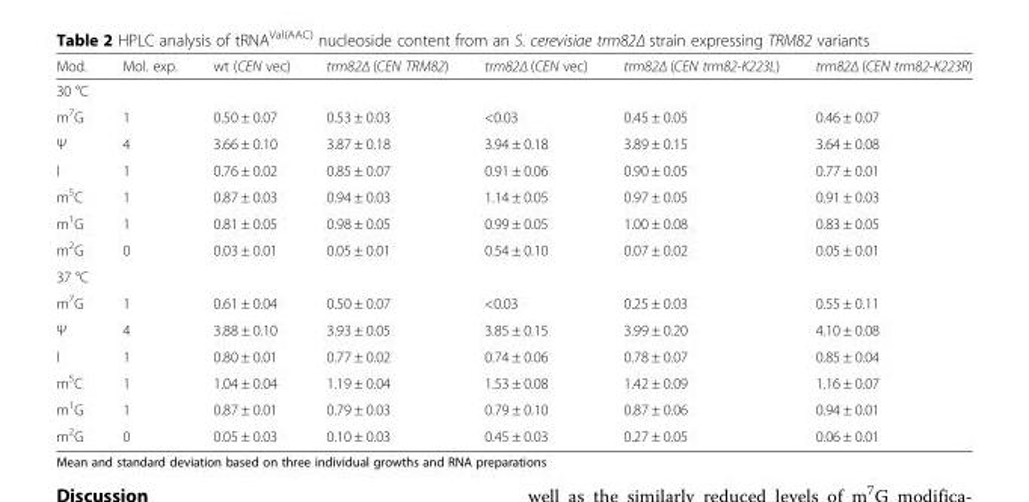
<table><thead><tr><td>Mod.</td><td>Mol. exp.</td><td>wt (CEN vec)</td><td>trm82Δ (CEN TRM82)</td><td>trm82Δ (CEN vec)</td><td>trm82Δ (CEN trm82-K223L)</td><td>trm82Δ (CEN trm82-K223R)</td></tr></thead><tbody><tr><td colspan="7">30 °C</td></tr><tr><td>m<sup>7</sup>G</td><td>1</td><td>0.50 ± 0.07</td><td>0.53 ± 0.03</td><td>&lt;0.03</td><td>0.45 ± 0.05</td><td>0.46 ± 0.07</td></tr><tr><td>Ψ</td><td>4</td><td>3.66 ± 0.10</td><td>3.87 ± 0.18</td><td>3.94 ± 0.18</td><td>3.89 ± 0.15</td><td>3.64 ± 0.08</td></tr><tr><td>I</td><td>1</td><td>0.76 ± 0.02</td><td>0.85 ± 0.07</td><td>0.91 ± 0.06</td><td>0.90 ± 0.05</td><td>0.77 ± 0.01</td></tr><tr><td>m<sup>5</sup>C</td><td>1</td><td>0.87 ± 0.03</td><td>0.94 ± 0.03</td><td>1.14 ± 0.05</td><td>0.97 ± 0.05</td><td>0.91 ± 0.03</td></tr><tr><td>m<sup>1</sup>G</td><td>1</td><td>0.81 ± 0.05</td><td>0.98 ± 0.05</td><td>0.99 ± 0.05</td><td>1.00 ± 0.08</td><td>0.83 ± 0.05</td></tr><tr><td>m<sup>2</sup>G</td><td>0</td><td>0.03 ± 0.01</td><td>0.05 ± 0.01</td><td>0.54 ± 0.10</td><td>0.07 ± 0.02</td><td>0.05 ± 0.01</td></tr><tr><td colspan="7">37 °C</td></tr><tr><td>m<sup>7</sup>G</td><td>1</td><td>0.61 ± 0.04</td><td>0.50 ± 0.07</td><td>&lt;0.03</td><td>0.25 ± 0.03</td><td>0.55 ± 0.11</td></tr><tr><td>Ψ</td><td>4</td><td>3.88 ± 0.10</td><td>3.93 ± 0.05</td><td>3.85 ± 0.15</td><td>3.99 ± 0.20</td><td>4.10 ± 0.08</td></tr><tr><td>I</td><td>1</td><td>0.80 ± 0.01</td><td>0.77 ± 0.02</td><td>0.74 ± 0.06</td><td>0.78 ± 0.07</td><td>0.85 ± 0.04</td></tr><tr><td>m<sup>5</sup>C</td><td>1</td><td>1.04 ± 0.04</td><td>1.19 ± 0.04</td><td>1.53 ± 0.08</td><td>1.42 ± 0.09</td><td>1.16 ± 0.07</td></tr><tr><td>m<sup>1</sup>G</td><td>1</td><td>0.87 ± 0.01</td><td>0.79 ± 0.03</td><td>0.79 ± 0.10</td><td>0.87 ± 0.06</td><td>0.94 ± 0.01</td></tr><tr><td>m<sup>2</sup>G</td><td>0</td><td>0.05 ± 0.03</td><td>0.10 ± 0.03</td><td>0.45 ± 0.03</td><td>0.27 ± 0.05</td><td>0.06 ± 0.01</td></tr></tbody></table>